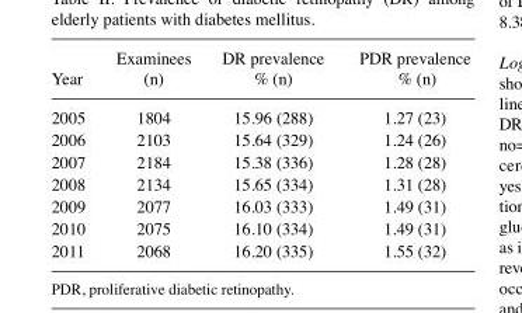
<table><thead><tr><td>Year</td><td>Examinees (n)</td><td>DR prevalence % (n)</td><td>PDR prevalence % (n)</td></tr></thead><tbody><tr><td>2005</td><td>1804</td><td>15.96 (288)</td><td>1.27 (23)</td></tr><tr><td>2006</td><td>2103</td><td>15.64 (329)</td><td>1.24 (26)</td></tr><tr><td>2007</td><td>2184</td><td>15.38 (336)</td><td>1.28 (28)</td></tr><tr><td>2008</td><td>2134</td><td>15.65 (334)</td><td>1.31 (28)</td></tr><tr><td>2009</td><td>2077</td><td>16.03 (333)</td><td>1.49 (31)</td></tr><tr><td>2010</td><td>2075</td><td>16.10 (334)</td><td>1.49 (31)</td></tr><tr><td>2011</td><td>2068</td><td>16.20 (335)</td><td>1.55 (32)</td></tr></tbody></table>